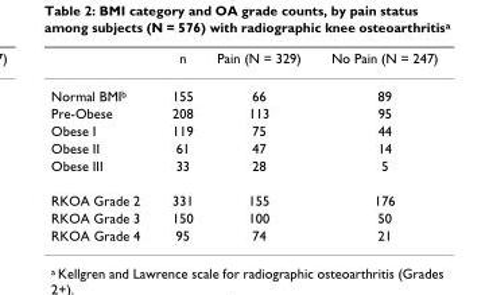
<table><thead><tr><td></td><td>n</td><td>Pain (N = 329)</td><td>No Pain (N = 247)</td></tr></thead><tbody><tr><td>Normal BMI<sup>b</sup></td><td>155</td><td>66</td><td>89</td></tr><tr><td>Pre-Obese</td><td>208</td><td>113</td><td>95</td></tr><tr><td>Obese I</td><td>119</td><td>75</td><td>44</td></tr><tr><td>Obese II</td><td>61</td><td>47</td><td>14</td></tr><tr><td>Obese III</td><td>33</td><td>28</td><td>5</td></tr><tr><td>RKOA Grade 2</td><td>331</td><td>155</td><td>176</td></tr><tr><td>RKOA Grade 3</td><td>150</td><td>100</td><td>50</td></tr><tr><td>RKOA Grade 4</td><td>95</td><td>74</td><td>21</td></tr></tbody></table>